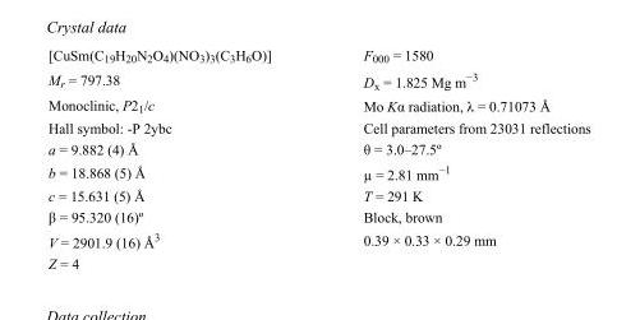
<table><tbody><tr><td>[CuSm(C<sub>19</sub>H<sub>20</sub>N<sub>2</sub>O<sub>4</sub>)(NO<sub>3</sub>)<sub>3</sub>(C<sub>3</sub>H<sub>6</sub>O)]</td><td>F000 = 1580</td></tr><tr><td>M<sub>r</sub> = 797.38</td><td>D<sub>x</sub> = 1.825 Mg m<sup>−3</sup></td></tr><tr><td>Monoclinic, P2<sub>1</sub>/c</td><td>Mo Kα radiation, λ = 0.71073 Å</td></tr><tr><td>Hall symbol: -P 2ybc</td><td>Cell parameters from 23031 reflections</td></tr><tr><td>a = 9.882 (4) Å</td><td>θ = 3.0–27.5º</td></tr><tr><td>b = 18.868 (5) Å</td><td>µ = 2.81 mm<sup>−1</sup></td></tr><tr><td>c = 15.631 (5) Å</td><td>T = 291 K</td></tr><tr><td>β = 95.320 (16)º</td><td>Block, brown</td></tr><tr><td>V = 2901.9 (16) Å<sup>3</sup></td><td>0.39 × 0.33 × 0.29 mm</td></tr><tr><td>Z = 4</td><td></td></tr></tbody></table>